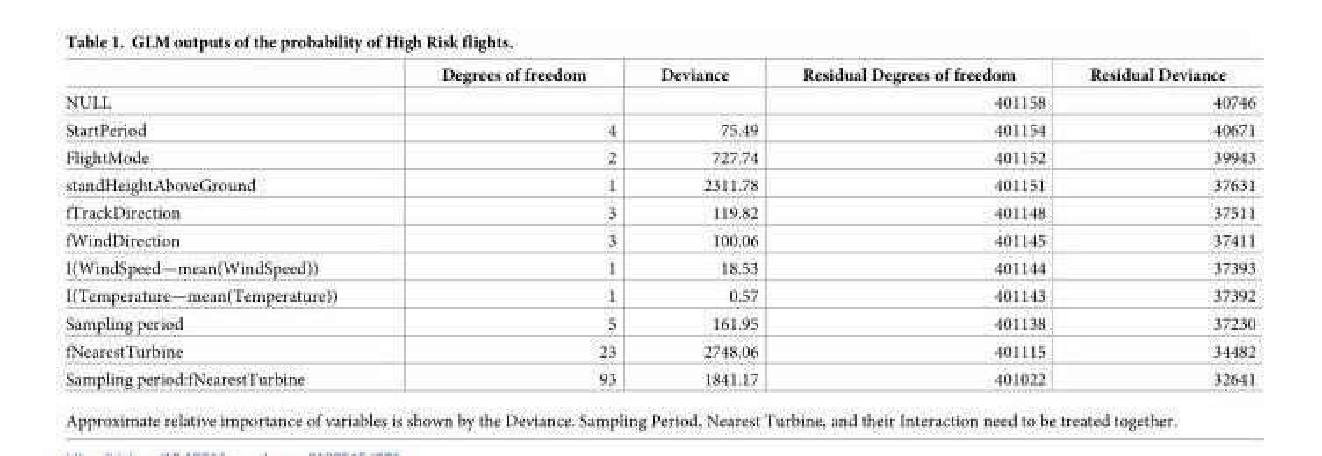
<table><thead><tr><td></td><td>Degrees of freedom</td><td>Deviance</td><td>Residual Degrees of freedom</td><td>Residual Deviance</td></tr></thead><tbody><tr><td>NULL</td><td></td><td></td><td>401158</td><td>40746</td></tr><tr><td>StartPeriod</td><td>4</td><td>75.49</td><td>401154</td><td>40671</td></tr><tr><td>FlightMode</td><td>2</td><td>727.74</td><td>401152</td><td>39943</td></tr><tr><td>standHeightAboveGround</td><td>1</td><td>2311.78</td><td>401151</td><td>37631</td></tr><tr><td>fTrackDirection</td><td>3</td><td>119.82</td><td>401148</td><td>37511</td></tr><tr><td>fWindDirection</td><td>3</td><td>100.06</td><td>401145</td><td>37411</td></tr><tr><td>I(WindSpeed—mean(WindSpeed))</td><td>1</td><td>18.53</td><td>401144</td><td>37393</td></tr><tr><td>I(Temperature—mean(Temperature))</td><td>1</td><td>0.57</td><td>401143</td><td>37392</td></tr><tr><td>Sampling period</td><td>5</td><td>161.95</td><td>401138</td><td>37230</td></tr><tr><td>fNearestTurbine</td><td>23</td><td>2748.06</td><td>401115</td><td>34482</td></tr><tr><td>Sampling period:fNearestTurbine</td><td>93</td><td>1841.17</td><td>401022</td><td>32641</td></tr></tbody></table>